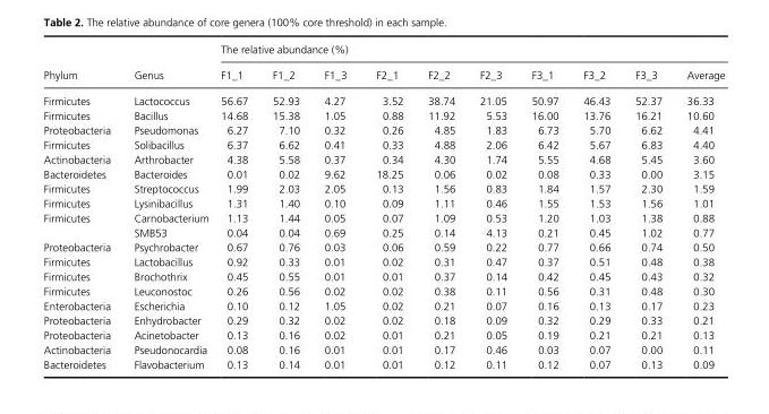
<table><thead><tr><td rowspan="2">Phylum</td><td rowspan="2">Genus</td><td colspan="10">The relative abundance (%)</td></tr><tr><td>F1_1</td><td>F1_2</td><td>F1_3</td><td>F2_1</td><td>F2_2</td><td>F2_3</td><td>F3_1</td><td>F3_2</td><td>F3_3</td><td>Average</td></tr></thead><tbody><tr><td>Firmicutes</td><td>Lactococcus</td><td>56.67</td><td>52.93</td><td>4.27</td><td>3.52</td><td>38.74</td><td>21.05</td><td>50.97</td><td>46.43</td><td>52.37</td><td>36.33</td></tr><tr><td>Firmicutes</td><td>Bacillus</td><td>14.68</td><td>15.38</td><td>1.05</td><td>0.88</td><td>11.92</td><td>5.53</td><td>16.00</td><td>13.76</td><td>16.21</td><td>10.60</td></tr><tr><td>Proteobacteria</td><td>Pseudomonas</td><td>6.27</td><td>7.10</td><td>0.32</td><td>0.26</td><td>4.85</td><td>1.83</td><td>6.73</td><td>5.70</td><td>6.62</td><td>4.41</td></tr><tr><td>Firmicutes</td><td>Solibacillus</td><td>6.37</td><td>6.62</td><td>0.41</td><td>0.33</td><td>4.88</td><td>2.06</td><td>6.42</td><td>5.67</td><td>6.83</td><td>4.40</td></tr><tr><td>Actinobacteria</td><td>Arthrobacter</td><td>4.38</td><td>5.58</td><td>0.37</td><td>0.34</td><td>4.30</td><td>1.74</td><td>5.55</td><td>4.68</td><td>5.45</td><td>3.60</td></tr><tr><td>Bacteroidetes</td><td>Bacteroides</td><td>0.01</td><td>0.02</td><td>9.62</td><td>18.25</td><td>0.06</td><td>0.02</td><td>0.08</td><td>0.33</td><td>0.00</td><td>3.15</td></tr><tr><td>Firmicutes</td><td>Streptococcus</td><td>1.99</td><td>2.03</td><td>2.05</td><td>0.13</td><td>1.56</td><td>0.83</td><td>1.84</td><td>1.57</td><td>2.30</td><td>1.59</td></tr><tr><td>Firmicutes</td><td>Lysinibacillus</td><td>1.31</td><td>1.40</td><td>0.10</td><td>0.09</td><td>1.11</td><td>0.46</td><td>1.55</td><td>1.53</td><td>1.56</td><td>1.01</td></tr><tr><td rowspan="2">Firmicutes</td><td>Carnobacterium</td><td>1.13</td><td>1.44</td><td>0.05</td><td>0.07</td><td>1.09</td><td>0.53</td><td>1.20</td><td>1.03</td><td>1.38</td><td>0.88</td></tr><tr><td>SMB53</td><td>0.04</td><td>0.04</td><td>0.69</td><td>0.25</td><td>0.14</td><td>4.13</td><td>0.21</td><td>0.45</td><td>1.02</td><td>0.77</td></tr><tr><td>Proteobacteria</td><td>Psychrobacter</td><td>0.67</td><td>0.76</td><td>0.03</td><td>0.06</td><td>0.59</td><td>0.22</td><td>0.77</td><td>0.66</td><td>0.74</td><td>0.50</td></tr><tr><td>Firmicutes</td><td>Lactobacillus</td><td>0.92</td><td>0.33</td><td>0.01</td><td>0.02</td><td>0.31</td><td>0.47</td><td>0.37</td><td>0.51</td><td>0.48</td><td>0.38</td></tr><tr><td>Firmicutes</td><td>Brochothrix</td><td>0.45</td><td>0.55</td><td>0.01</td><td>0.01</td><td>0.37</td><td>0.14</td><td>0.42</td><td>0.45</td><td>0.43</td><td>0.32</td></tr><tr><td>Firmicutes</td><td>Leuconostoc</td><td>0.26</td><td>0.56</td><td>0.02</td><td>0.02</td><td>0.38</td><td>0.11</td><td>0.56</td><td>0.31</td><td>0.48</td><td>0.30</td></tr><tr><td>Enterobacteria</td><td>Escherichia</td><td>0.10</td><td>0.12</td><td>1.05</td><td>0.02</td><td>0.21</td><td>0.07</td><td>0.16</td><td>0.13</td><td>0.17</td><td>0.23</td></tr><tr><td>Proteobacteria</td><td>Enhydrobacter</td><td>0.29</td><td>0.32</td><td>0.02</td><td>0.02</td><td>0.18</td><td>0.09</td><td>0.32</td><td>0.29</td><td>0.33</td><td>0.21</td></tr><tr><td>Proteobacteria</td><td>Acinetobacter</td><td>0.13</td><td>0.16</td><td>0.02</td><td>0.01</td><td>0.21</td><td>0.05</td><td>0.19</td><td>0.21</td><td>0.21</td><td>0.13</td></tr><tr><td>Actinobacteria</td><td>Pseudonocardia</td><td>0.08</td><td>0.16</td><td>0.01</td><td>0.01</td><td>0.17</td><td>0.46</td><td>0.03</td><td>0.07</td><td>0.00</td><td>0.11</td></tr><tr><td>Bacteroidetes</td><td>Flavobacterium</td><td>0.13</td><td>0.14</td><td>0.01</td><td>0.01</td><td>0.12</td><td>0.11</td><td>0.12</td><td>0.07</td><td>0.13</td><td>0.09</td></tr></tbody></table>